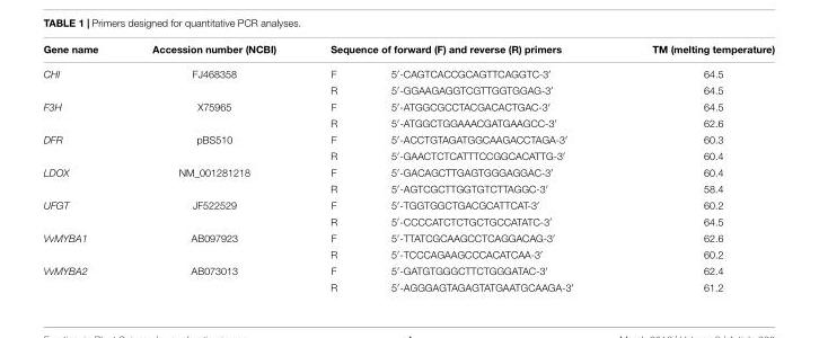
<table><thead><tr><td rowspan="2">Gene name CHI</td><td rowspan="2">Accession number (NCBI) FJ468358</td><td colspan="2">Sequence of forward (F) and reverse (R) primers</td><td rowspan="2">TM (melting temperature) 64.5</td></tr><tr><td>F</td><td>5′-CAGTCACCGCAGTTCAGGTC-3′</td></tr></thead><tbody><tr><td></td><td></td><td>R</td><td>5′-GGAAGAGGTCGTTGGTGGAG-3′</td><td>64.5</td></tr><tr><td rowspan="2">F3H</td><td>X75965</td><td>F</td><td>5′-ATGGCGCCTACGACACTGAC-3′</td><td>64.5</td></tr><tr><td></td><td>R</td><td>5′-ATGGCTGGAAACGATGAAGCC-3′</td><td>62.6</td></tr><tr><td rowspan="2">DFR</td><td>pBS510</td><td>F</td><td>5′-ACCTGTAGATGGCAAGACCTAGA-3′</td><td>60.3</td></tr><tr><td></td><td>R</td><td>5′-GAACTCTCATTTCCGGCACATTG-3′</td><td>60.4</td></tr><tr><td rowspan="2">LDOX</td><td>NM_001281218</td><td>F</td><td>5′-GACAGCTTGAGTGGGAGGAC-3′</td><td>60.4</td></tr><tr><td></td><td>R</td><td>5′-AGTCGCTTGGTGTCTTAGGC-3′</td><td>58.4</td></tr><tr><td rowspan="2">UFGT</td><td>JF522529</td><td>F</td><td>5′-TGGTGGCTGACGCATTCAT-3′</td><td>60.2</td></tr><tr><td></td><td>R</td><td>5′-CCCCATCTCTGCTGCCATATC-3′</td><td>64.5</td></tr><tr><td rowspan="2">VvMYBA1</td><td>AB097923</td><td>F</td><td>5′-TTATCGCAAGCCTCAGGACAG-3′</td><td>62.6</td></tr><tr><td></td><td>R</td><td>5′-TCCCAGAAGCCCACATCAA-3′</td><td>60.2</td></tr><tr><td rowspan="2">VvMYBA2</td><td>AB073013</td><td>F</td><td>5′-GATGTGGGCTTCTGGGATAC-3′</td><td>62.4</td></tr><tr><td></td><td>R</td><td>5′-AGGGAGTAGAGTATGAATGCAAGA-3′</td><td>61.2</td></tr></tbody></table>